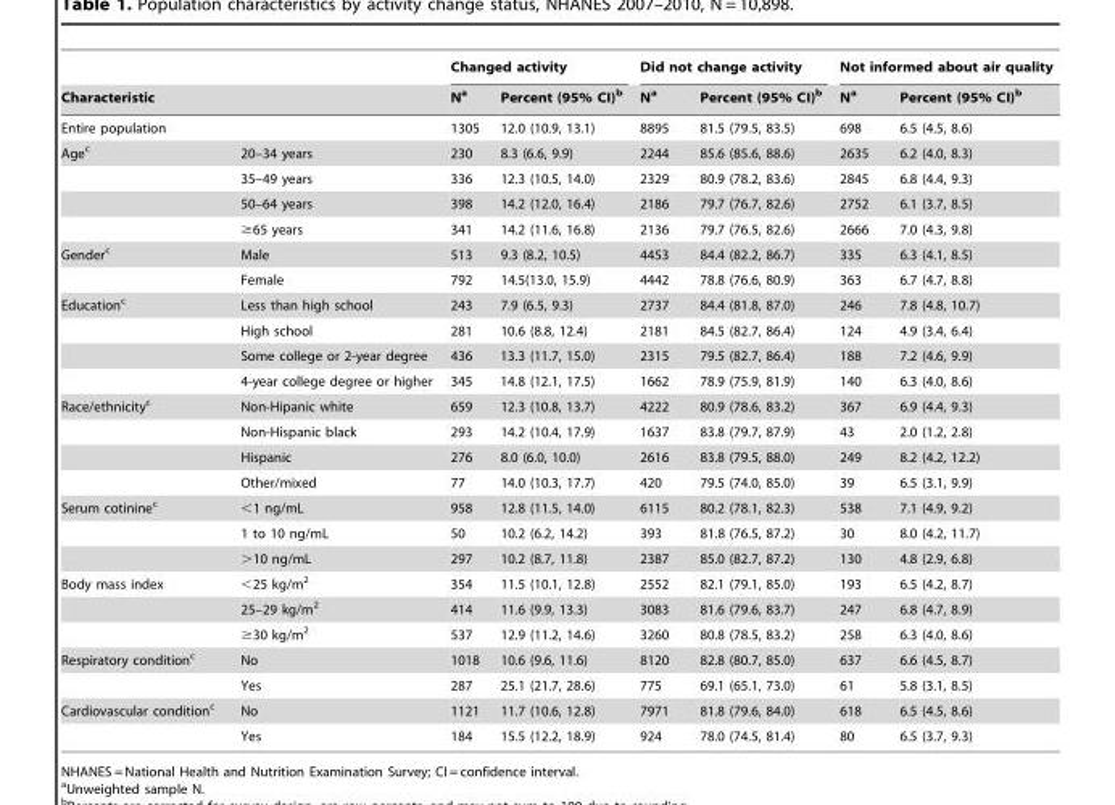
<table><thead><tr><td></td><td></td><td colspan="2">Changed activity</td><td colspan="2">Did not change activity</td><td colspan="2">Not informed about air quality</td></tr><tr><td colspan="2">Characteristic</td><td>N<sup>a</sup></td><td>Percent (95% CI)<sup>b</sup></td><td>N<sup>a</sup></td><td>Percent (95% CI)<sup>b</sup></td><td>N<sup>a</sup></td><td>Percent (95% CI)<sup>b</sup></td></tr></thead><tbody><tr><td colspan="2">Entire population</td><td>1305</td><td>12.0 (10.9, 13.1)</td><td>8895</td><td>81.5 (79.5, 83.5)</td><td>698</td><td>6.5 (4.5, 8.6)</td></tr><tr><td rowspan="4">Age<sup>c</sup></td><td>20–34 years</td><td>230</td><td>8.3 (6.6, 9.9)</td><td>2244</td><td>85.6 (85.6, 88.6)</td><td>2635</td><td>6.2 (4.0, 8.3)</td></tr><tr><td>35–49 years</td><td>336</td><td>12.3 (10.5, 14.0)</td><td>2329</td><td>80.9 (78.2, 83.6)</td><td>2845</td><td>6.8 (4.4, 9.3)</td></tr><tr><td>50–64 years</td><td>398</td><td>14.2 (12.0, 16.4)</td><td>2186</td><td>79.7 (76.7, 82.6)</td><td>2752</td><td>6.1 (3.7, 8.5)</td></tr><tr><td>≥65 years</td><td>341</td><td>14.2 (11.6, 16.8)</td><td>2136</td><td>79.7 (76.5, 82.6)</td><td>2666</td><td>7.0 (4.3, 9.8)</td></tr><tr><td rowspan="2">Gender<sup>c</sup></td><td>Male</td><td>513</td><td>9.3 (8.2, 10.5)</td><td>4453</td><td>84.4 (82.2, 86.7)</td><td>335</td><td>6.3 (4.1, 8.5)</td></tr><tr><td>Female</td><td>792</td><td>14.5(13.0, 15.9)</td><td>4442</td><td>78.8 (76.6, 80.9)</td><td>363</td><td>6.7 (4.7, 8.8)</td></tr><tr><td rowspan="4">Education<sup>c</sup></td><td>Less than high school</td><td>243</td><td>7.9 (6.5, 9.3)</td><td>2737</td><td>84.4 (81.8, 87.0)</td><td>246</td><td>7.8 (4.8, 10.7)</td></tr><tr><td>High school</td><td>281</td><td>10.6 (8.8, 12.4)</td><td>2181</td><td>84.5 (82.7, 86.4)</td><td>124</td><td>4.9 (3.4, 6.4)</td></tr><tr><td>Some college or 2-year degree</td><td>436</td><td>13.3 (11.7, 15.0)</td><td>2315</td><td>79.5 (82.7, 86.4)</td><td>188</td><td>7.2 (4.6, 9.9)</td></tr><tr><td>4-year college degree or higher</td><td>345</td><td>14.8 (12.1, 17.5)</td><td>1662</td><td>78.9 (75.9, 81.9)</td><td>140</td><td>6.3 (4.0, 8.6)</td></tr><tr><td rowspan="4">Race/ethnicity<sup>c</sup></td><td>Non-Hipanic white</td><td>659</td><td>12.3 (10.8, 13.7)</td><td>4222</td><td>80.9 (78.6, 83.2)</td><td>367</td><td>6.9 (4.4, 9.3)</td></tr><tr><td>Non-Hispanic black</td><td>293</td><td>14.2 (10.4, 17.9)</td><td>1637</td><td>83.8 (79.7, 87.9)</td><td>43</td><td>2.0 (1.2, 2.8)</td></tr><tr><td>Hispanic</td><td>276</td><td>8.0 (6.0, 10.0)</td><td>2616</td><td>83.8 (79.5, 88.0)</td><td>249</td><td>8.2 (4.2, 12.2)</td></tr><tr><td>Other/mixed</td><td>77</td><td>14.0 (10.3, 17.7)</td><td>420</td><td>79.5 (74.0, 85.0)</td><td>39</td><td>6.5 (3.1, 9.9)</td></tr><tr><td rowspan="3">Serum cotinine<sup>c</sup></td><td>&lt;1 ng/mL</td><td>958</td><td>12.8 (11.5, 14.0)</td><td>6115</td><td>80.2 (78.1, 82.3)</td><td>538</td><td>7.1 (4.9, 9.2)</td></tr><tr><td>1 to 10 ng/mL</td><td>50</td><td>10.2 (6.2, 14.2)</td><td>393</td><td>81.8 (76.5, 87.2)</td><td>30</td><td>8.0 (4.2, 11.7)</td></tr><tr><td>&gt;10 ng/mL</td><td>297</td><td>10.2 (8.7, 11.8)</td><td>2387</td><td>85.0 (82.7, 87.2)</td><td>130</td><td>4.8 (2.9, 6.8)</td></tr><tr><td rowspan="3">Body mass index</td><td>&lt;25 kg/m<sup>2</sup></td><td>354</td><td>11.5 (10.1, 12.8)</td><td>2552</td><td>82.1 (79.1, 85.0)</td><td>193</td><td>6.5 (4.2, 8.7)</td></tr><tr><td>25–29 kg/m<sup>2</sup></td><td>414</td><td>11.6 (9.9, 13.3)</td><td>3083</td><td>81.6 (79.6, 83.7)</td><td>247</td><td>6.8 (4.7, 8.9)</td></tr><tr><td>≥30 kg/m<sup>2</sup></td><td>537</td><td>12.9 (11.2, 14.6)</td><td>3260</td><td>80.8 (78.5, 83.2)</td><td>258</td><td>6.3 (4.0, 8.6)</td></tr><tr><td rowspan="2">Respiratory condition<sup>c</sup></td><td>No</td><td>1018</td><td>10.6 (9.6, 11.6)</td><td>8120</td><td>82.8 (80.7, 85.0)</td><td>637</td><td>6.6 (4.5, 8.7)</td></tr><tr><td>Yes</td><td>287</td><td>25.1 (21.7, 28.6)</td><td>775</td><td>69.1 (65.1, 73.0)</td><td>61</td><td>5.8 (3.1, 8.5)</td></tr><tr><td rowspan="2">Cardiovascular condition<sup>c</sup></td><td>No</td><td>1121</td><td>11.7 (10.6, 12.8)</td><td>7971</td><td>81.8 (79.6, 84.0)</td><td>618</td><td>6.5 (4.5, 8.6)</td></tr><tr><td>Yes</td><td>184</td><td>15.5 (12.2, 18.9)</td><td>924</td><td>78.0 (74.5, 81.4)</td><td>80</td><td>6.5 (3.7, 9.3)</td></tr></tbody></table>